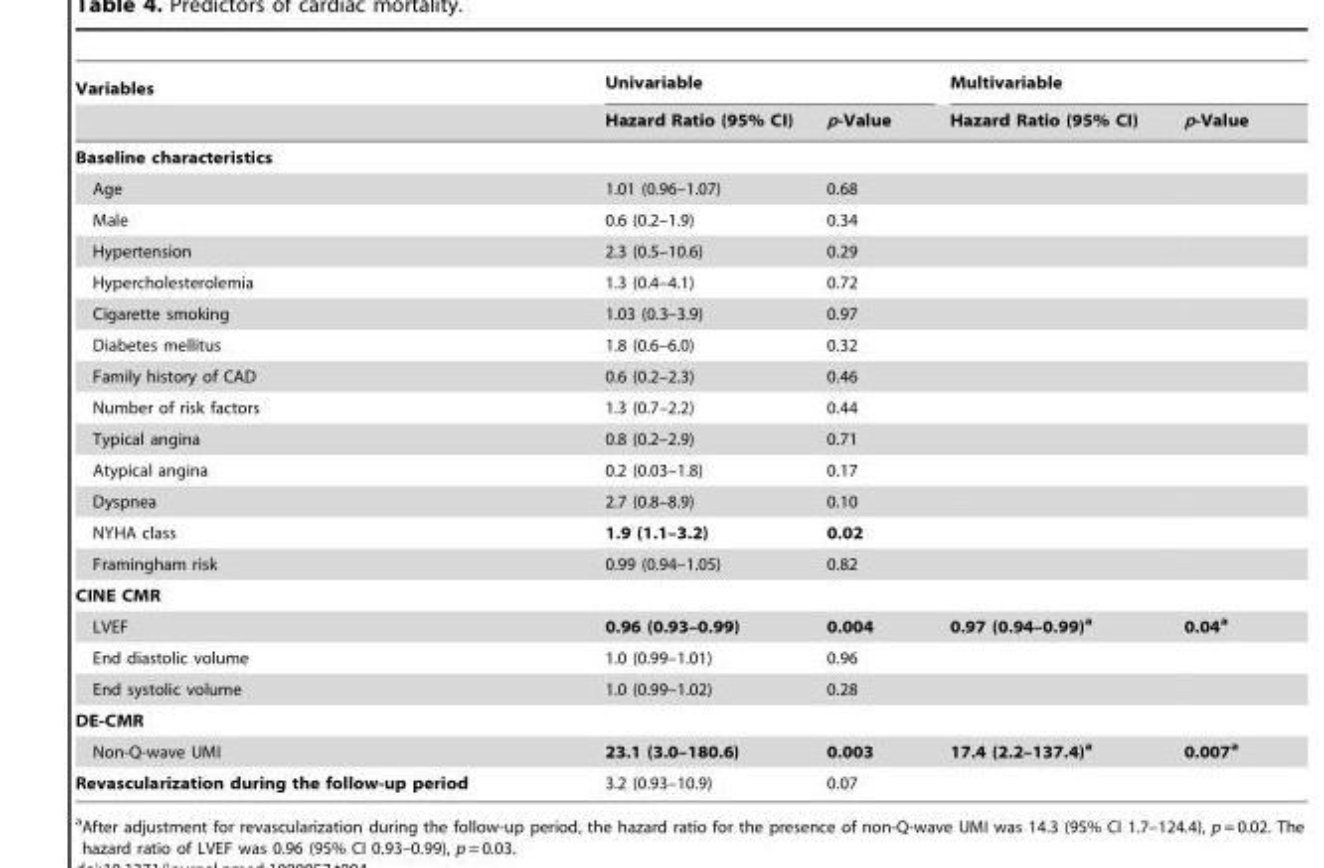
<table><thead><tr><td rowspan="2">Variables</td><td colspan="2">Univariable</td><td colspan="2">Multivariable</td></tr><tr><td>Hazard Ratio (95% CI)</td><td>p-Value</td><td>Hazard Ratio (95% CI)</td><td>p-Value</td></tr></thead><tbody><tr><td colspan="5">Baseline characteristics</td></tr><tr><td>Age</td><td>1.01 (0.96–1.07)</td><td>0.68</td><td></td><td></td></tr><tr><td>Male</td><td>0.6 (0.2–1.9)</td><td>0.34</td><td></td><td></td></tr><tr><td>Hypertension</td><td>2.3 (0.5–10.6)</td><td>0.29</td><td></td><td></td></tr><tr><td>Hypercholesterolemia</td><td>1.3 (0.4–4.1)</td><td>0.72</td><td></td><td></td></tr><tr><td>Cigarette smoking</td><td>1.03 (0.3–3.9)</td><td>0.97</td><td></td><td></td></tr><tr><td>Diabetes mellitus</td><td>1.8 (0.6–6.0)</td><td>0.32</td><td></td><td></td></tr><tr><td>Family history of CAD</td><td>0.6 (0.2–2.3)</td><td>0.46</td><td></td><td></td></tr><tr><td>Number of risk factors</td><td>1.3 (0.7–2.2)</td><td>0.44</td><td></td><td></td></tr><tr><td>Typical angina</td><td>0.8 (0.2–2.9)</td><td>0.71</td><td></td><td></td></tr><tr><td>Atypical angina</td><td>0.2 (0.03–1.8)</td><td>0.17</td><td></td><td></td></tr><tr><td>Dyspnea</td><td>2.7 (0.8–8.9)</td><td>0.10</td><td></td><td></td></tr><tr><td>NYHA class</td><td>1.9 (1.1–3.2)</td><td>0.02</td><td></td><td></td></tr><tr><td>Framingham risk</td><td>0.99 (0.94–1.05)</td><td>0.82</td><td></td><td></td></tr><tr><td colspan="5">CINE CMR</td></tr><tr><td>LVEF</td><td>0.96 (0.93–0.99)</td><td>0.004</td><td>0.97 (0.94–0.99)a</td><td>0.04a</td></tr><tr><td>End diastolic volume</td><td>1.0 (0.99–1.01)</td><td>0.96</td><td></td><td></td></tr><tr><td>End systolic volume</td><td>1.0 (0.99–1.02)</td><td>0.28</td><td></td><td></td></tr><tr><td colspan="5">DE-CMR</td></tr><tr><td>Non-Q-wave UMI</td><td>23.1 (3.0–180.6)</td><td>0.003</td><td>17.4 (2.2–137.4)a</td><td>0.007a</td></tr><tr><td>Revascularization during the follow-up period</td><td>3.2 (0.93–10.9)</td><td>0.07</td><td></td><td></td></tr></tbody></table>